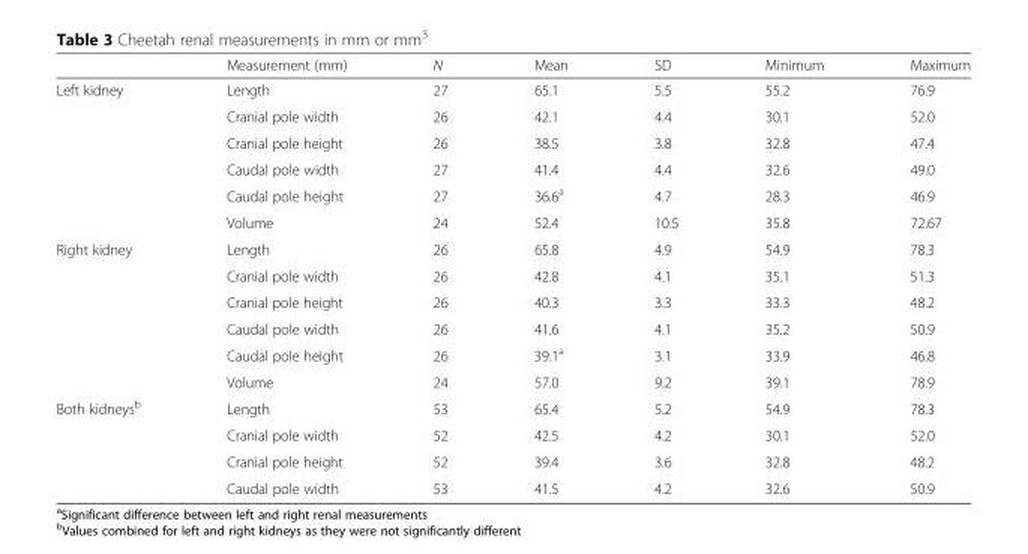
<table><thead><tr><td></td><td>Measurement (mm)</td><td>N</td><td>Mean</td><td>SD</td><td>Minimum</td><td>Maximum</td></tr></thead><tbody><tr><td rowspan="6">Left kidney</td><td>Length</td><td>27</td><td>65.1</td><td>5.5</td><td>55.2</td><td>76.9</td></tr><tr><td>Cranial pole width</td><td>26</td><td>42.1</td><td>4.4</td><td>30.1</td><td>52.0</td></tr><tr><td>Cranial pole height</td><td>26</td><td>38.5</td><td>3.8</td><td>32.8</td><td>47.4</td></tr><tr><td>Caudal pole width</td><td>27</td><td>41.4</td><td>4.4</td><td>32.6</td><td>49.0</td></tr><tr><td>Caudal pole height</td><td>27</td><td>36.6<sup>a</sup></td><td>4.7</td><td>28.3</td><td>46.9</td></tr><tr><td>Volume</td><td>24</td><td>52.4</td><td>10.5</td><td>35.8</td><td>72.67</td></tr><tr><td rowspan="6">Right kidney</td><td>Length</td><td>26</td><td>65.8</td><td>4.9</td><td>54.9</td><td>78.3</td></tr><tr><td>Cranial pole width</td><td>26</td><td>42.8</td><td>4.1</td><td>35.1</td><td>51.3</td></tr><tr><td>Cranial pole height</td><td>26</td><td>40.3</td><td>3.3</td><td>33.3</td><td>48.2</td></tr><tr><td>Caudal pole width</td><td>26</td><td>41.6</td><td>4.1</td><td>35.2</td><td>50.9</td></tr><tr><td>Caudal pole height</td><td>26</td><td>39.1<sup>a</sup></td><td>3.1</td><td>33.9</td><td>46.8</td></tr><tr><td>Volume</td><td>24</td><td>57.0</td><td>9.2</td><td>39.1</td><td>78.9</td></tr><tr><td rowspan="4">Both kidneys<sup>b</sup></td><td>Length</td><td>53</td><td>65.4</td><td>5.2</td><td>54.9</td><td>78.3</td></tr><tr><td>Cranial pole width</td><td>52</td><td>42.5</td><td>4.2</td><td>30.1</td><td>52.0</td></tr><tr><td>Cranial pole height</td><td>52</td><td>39.4</td><td>3.6</td><td>32.8</td><td>48.2</td></tr><tr><td>Caudal pole width</td><td>53</td><td>41.5</td><td>4.2</td><td>32.6</td><td>50.9</td></tr></tbody></table>